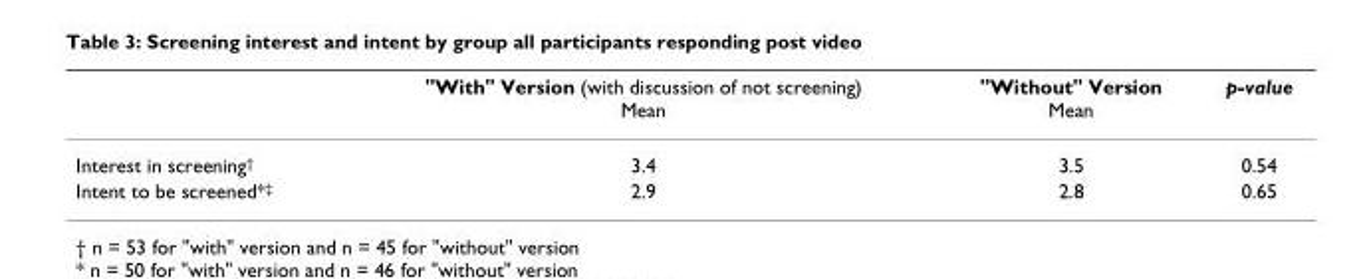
<table><thead><tr><td></td><td>&quot;With&quot; Version (with discussion of not screening) Mean</td><td>&quot;Without&quot; Version Mean</td><td>p-value</td></tr></thead><tbody><tr><td>Interest in screening<sup>†</sup></td><td>3.4</td><td>3.5</td><td>0.54</td></tr><tr><td>Intent to be screened*<sup>‡</sup></td><td>2.9</td><td>2.8</td><td>0.65</td></tr></tbody></table>